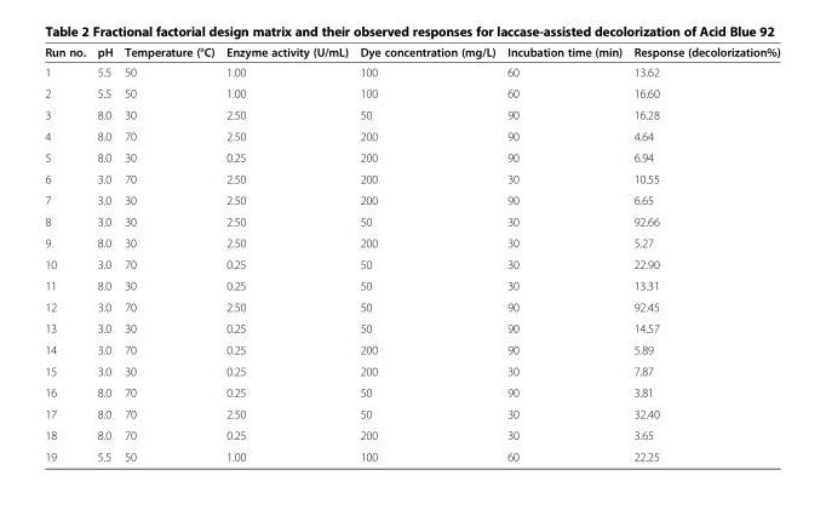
<table><thead><tr><td>Run no.</td><td>pH</td><td>Temperature (°C)</td><td>Enzyme activity (U/mL)</td><td>Dye concentration (mg/L)</td><td>Incubation time (min)</td><td>Response (decolorization%)</td></tr></thead><tbody><tr><td>1</td><td>5.5</td><td>50</td><td>1.00</td><td>100</td><td>60</td><td>13.62</td></tr><tr><td>2</td><td>5.5</td><td>50</td><td>1.00</td><td>100</td><td>60</td><td>16.60</td></tr><tr><td>3</td><td>8.0</td><td>30</td><td>2.50</td><td>50</td><td>90</td><td>16.28</td></tr><tr><td>4</td><td>8.0</td><td>70</td><td>2.50</td><td>200</td><td>90</td><td>4.64</td></tr><tr><td>5</td><td>8.0</td><td>30</td><td>0.25</td><td>200</td><td>90</td><td>6.94</td></tr><tr><td>6</td><td>3.0</td><td>70</td><td>2.50</td><td>200</td><td>30</td><td>10.55</td></tr><tr><td>7</td><td>3.0</td><td>30</td><td>2.50</td><td>200</td><td>90</td><td>6.65</td></tr><tr><td>8</td><td>3.0</td><td>30</td><td>2.50</td><td>50</td><td>30</td><td>92.66</td></tr><tr><td>9</td><td>8.0</td><td>30</td><td>2.50</td><td>200</td><td>30</td><td>5.27</td></tr><tr><td>10</td><td>3.0</td><td>70</td><td>0.25</td><td>50</td><td>30</td><td>22.90</td></tr><tr><td>11</td><td>8.0</td><td>30</td><td>0.25</td><td>50</td><td>30</td><td>13.31</td></tr><tr><td>12</td><td>3.0</td><td>70</td><td>2.50</td><td>50</td><td>90</td><td>92.45</td></tr><tr><td>13</td><td>3.0</td><td>30</td><td>0.25</td><td>50</td><td>90</td><td>14.57</td></tr><tr><td>14</td><td>3.0</td><td>70</td><td>0.25</td><td>200</td><td>90</td><td>5.89</td></tr><tr><td>15</td><td>3.0</td><td>30</td><td>0.25</td><td>200</td><td>30</td><td>7.87</td></tr><tr><td>16</td><td>8.0</td><td>70</td><td>0.25</td><td>50</td><td>90</td><td>3.81</td></tr><tr><td>17</td><td>8.0</td><td>70</td><td>2.50</td><td>50</td><td>30</td><td>32.40</td></tr><tr><td>18</td><td>8.0</td><td>70</td><td>0.25</td><td>200</td><td>30</td><td>3.65</td></tr><tr><td>19</td><td>5.5</td><td>50</td><td>1.00</td><td>100</td><td>60</td><td>22.25</td></tr></tbody></table>